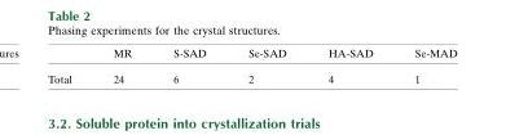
<table><thead><tr><td></td><td>MR</td><td>S-SAD</td><td>Se-SAD</td><td>HA-SAD</td><td>Se-MAD</td></tr></thead><tbody><tr><td>Total</td><td>24</td><td>6</td><td>2</td><td>4</td><td>1</td></tr></tbody></table>